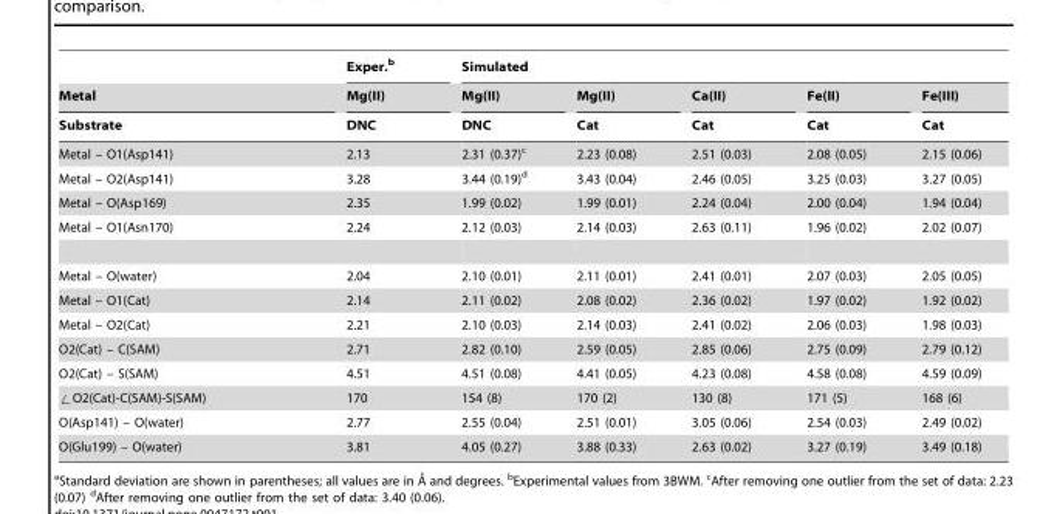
<table><thead><tr><td rowspan="3">Metal Substrate</td><td rowspan="3">Exper.<sup>b</sup> Mg(II) DNC</td><td colspan="5">Simulated</td></tr><tr><td rowspan="2">Mg(II) DNC</td><td rowspan="2">Mg(II) Cat</td><td rowspan="2">Ca(II) Cat</td><td rowspan="2">Fe(II) Cat</td><td rowspan="2">Fe(III) Cat</td></tr><tr></tr></thead><tbody><tr><td>Metal – O1(Asp141)</td><td>2.13</td><td>2.31 (0.37)<sup>c</sup></td><td>2.23 (0.08)</td><td>2.51 (0.03)</td><td>2.08 (0.05)</td><td>2.15 (0.06)</td></tr><tr><td>Metal – O2(Asp141)</td><td>3.28</td><td>3.44 (0.19)<sup>d</sup></td><td>3.43 (0.04)</td><td>2.46 (0.05)</td><td>3.25 (0.03)</td><td>3.27 (0.05)</td></tr><tr><td>Metal – O(Asp169)</td><td>2.35</td><td>1.99 (0.02)</td><td>1.99 (0.01)</td><td>2.24 (0.04)</td><td>2.00 (0.04)</td><td>1.94 (0.04)</td></tr><tr><td>Metal – O1(Asn170)</td><td>2.24</td><td>2.12 (0.03)</td><td>2.14 (0.03)</td><td>2.63 (0.11)</td><td>1.96 (0.02)</td><td>2.02 (0.07)</td></tr><tr><td>Metal – O(water)</td><td>2.04</td><td>2.10 (0.01)</td><td>2.11 (0.01)</td><td>2.41 (0.01)</td><td>2.07 (0.03)</td><td>2.05 (0.05)</td></tr><tr><td>Metal – O1(Cat)</td><td>2.14</td><td>2.11 (0.02)</td><td>2.08 (0.02)</td><td>2.36 (0.02)</td><td>1.97 (0.02)</td><td>1.92 (0.02)</td></tr><tr><td>Metal – O2(Cat)</td><td>2.21</td><td>2.10 (0.03)</td><td>2.14 (0.03)</td><td>2.41 (0.02)</td><td>2.06 (0.03)</td><td>1.98 (0.03)</td></tr><tr><td>O2(Cat) – C(SAM)</td><td>2.71</td><td>2.82 (0.10)</td><td>2.59 (0.05)</td><td>2.85 (0.06)</td><td>2.75 (0.09)</td><td>2.79 (0.12)</td></tr><tr><td>O2(Cat) – S(SAM)</td><td>4.51</td><td>4.51 (0.08)</td><td>4.41 (0.05)</td><td>4.23 (0.08)</td><td>4.58 (0.08)</td><td>4.59 (0.09)</td></tr><tr><td>%O2(Cat)-C(SAM)-S(SAM)</td><td>170</td><td>154 (8)</td><td>170 (2)</td><td>130 (8)</td><td>171 (5)</td><td>168 (6)</td></tr><tr><td>O(Asp141) – O(water)</td><td>2.77</td><td>2.55 (0.04)</td><td>2.51 (0.01)</td><td>3.05 (0.06)</td><td>2.54 (0.03)</td><td>2.49 (0.02)</td></tr><tr><td>O(Glu199) – O(water)</td><td>3.81</td><td>4.05 (0.27)</td><td>3.88 (0.33)</td><td>2.63 (0.02)</td><td>3.27 (0.19)</td><td>3.49 (0.18)</td></tr></tbody></table>